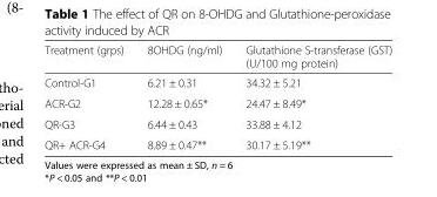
<table><thead><tr><td>Treatment (grps)</td><td>8OHDG (ng/ml)</td><td>Glutathione S-transferase (GST) (U/100 mg protein)</td></tr></thead><tbody><tr><td>Control-G1</td><td>6.21 ± 0.31</td><td>34.32 ± 5.21</td></tr><tr><td>ACR-G2</td><td>12.28 ± 0.65*</td><td>24.47 ± 8.49*</td></tr><tr><td>QR-G3</td><td>6.44 ± 0.43</td><td>33.88 ± 4.12</td></tr><tr><td>QR+ ACR-G4</td><td>8.89 ± 0.47**</td><td>30.17 ± 5.19**</td></tr></tbody></table>